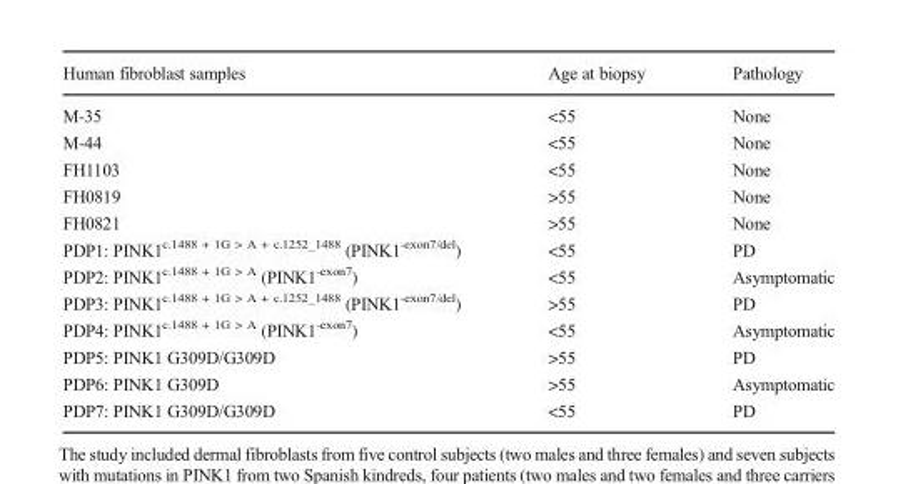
<table><thead><tr><td>Human fibroblast samples</td><td>Age at biopsy</td><td>Pathology</td></tr></thead><tbody><tr><td>M-35</td><td>&lt;55</td><td>None</td></tr><tr><td>M-44</td><td>&lt;55</td><td>None</td></tr><tr><td>FH1103</td><td>&lt;55</td><td>None</td></tr><tr><td>FH0819</td><td>&gt;55</td><td>None</td></tr><tr><td>FH0821</td><td>&gt;55</td><td>None</td></tr><tr><td>PDP1: PINK1<sup>c.1488 + 1G &gt; A + c.1252_1488</sup> (PINK1<sup>-exon7/del</sup>)</td><td>&lt;55</td><td>PD</td></tr><tr><td>PDP2: PINK1<sup>c.1488 + 1G &gt; A</sup> (PINK1<sup>-exon7</sup>)</td><td>&lt;55</td><td>Asymptomatic</td></tr><tr><td>PDP3: PINK1<sup>c.1488 + 1G &gt; A + c.1252_1488</sup> (PINK1<sup>-exon7/del</sup>)</td><td>&gt;55</td><td>PD</td></tr><tr><td>PDP4: PINK1<sup>c.1488 + 1G &gt; A</sup> (PINK1<sup>-exon7</sup>)</td><td>&lt;55</td><td>Asymptomatic</td></tr><tr><td>PDP5: PINK1 G309D/G309D</td><td>&gt;55</td><td>PD</td></tr><tr><td>PDP6: PINK1 G309D</td><td>&gt;55</td><td>Asymptomatic</td></tr><tr><td>PDP7: PINK1 G309D/G309D</td><td>&lt;55</td><td>PD</td></tr></tbody></table>